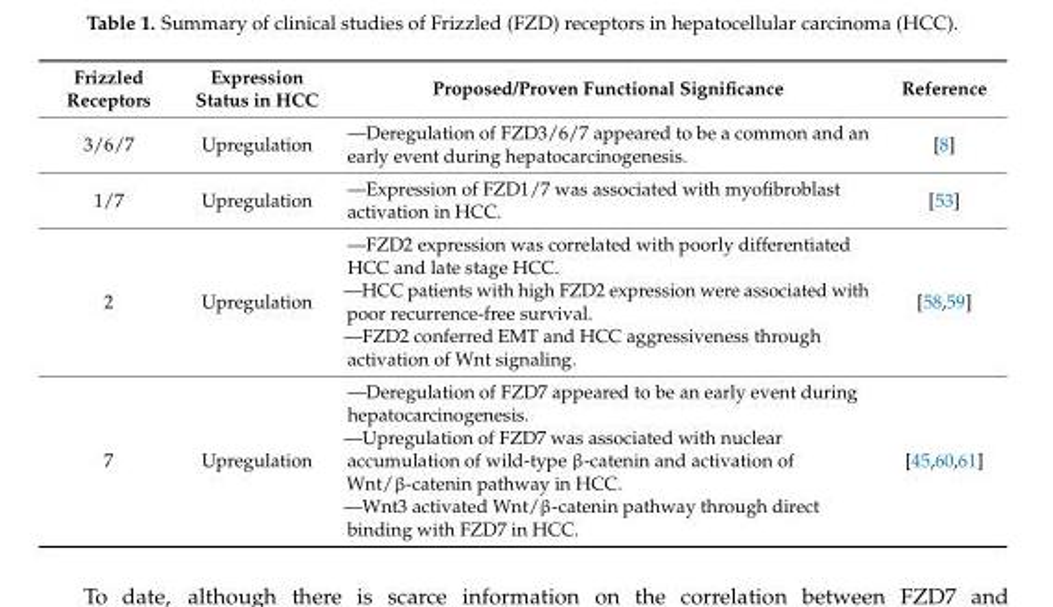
<table><thead><tr><td>Frizzled Receptors</td><td>Expression Status in HCC</td><td>Proposed/Proven Functional Significance</td><td>Reference</td></tr></thead><tbody><tr><td>3/6/7</td><td>Upregulation</td><td>—Deregulation of FZD3/6/7 appeared to be a common and an early event during hepatocarcinogenesis.</td><td>[8]</td></tr><tr><td>1/7</td><td>Upregulation</td><td>—Expression of FZD1/7 was associated with myofibroblast activation in HCC.</td><td>[53]</td></tr><tr><td>2</td><td>Upregulation</td><td>—FZD2 expression was correlated with poorly differentiated HCC and late stage HCC. —HCC patients with high FZD2 expression were associated with poor recurrence-free survival. —FZD2 conferred EMT and HCC aggressiveness through activation of Wnt signaling.</td><td>[58,59]</td></tr><tr><td>7</td><td>Upregulation</td><td>—Deregulation of FZD7 appeared to be an early event during hepatocarcinogenesis. —Upregulation of FZD7 was associated with nuclear accumulation of wild-type β-catenin and activation of Wnt/β-catenin pathway in HCC. —Wnt3 activated Wnt/β-catenin pathway through direct binding with FZD7 in HCC.</td><td>[45,60,61]</td></tr></tbody></table>